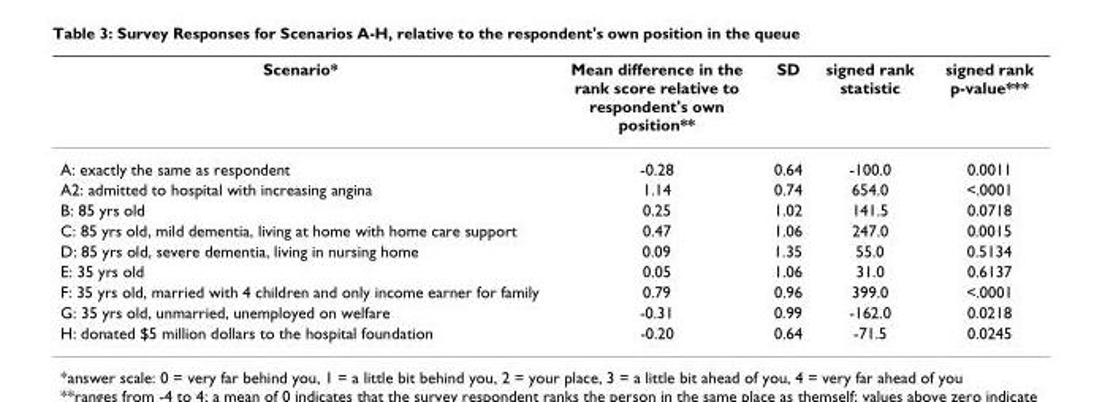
<table><thead><tr><td>Scenario*</td><td>Mean difference in the rank score relative to respondent&#x27;s own position**</td><td>SD</td><td>signed rank statistic</td><td>signed rank p-value***</td></tr></thead><tbody><tr><td>A: exactly the same as respondent</td><td>-0.28</td><td>0.64</td><td>-100.0</td><td>0.0011</td></tr><tr><td>A2: admitted to hospital with increasing angina</td><td>1.14</td><td>0.74</td><td>654.0</td><td>&lt;.0001</td></tr><tr><td>B: 85 yrs old</td><td>0.25</td><td>1.02</td><td>141.5</td><td>0.0718</td></tr><tr><td>C: 85 yrs old, mild dementia, living at home with home care support</td><td>0.47</td><td>1.06</td><td>247.0</td><td>0.0015</td></tr><tr><td>D: 85 yrs old, severe dementia, living in nursing home</td><td>0.09</td><td>1.35</td><td>55.0</td><td>0.5134</td></tr><tr><td>E: 35 yrs old</td><td>0.05</td><td>1.06</td><td>31.0</td><td>0.6137</td></tr><tr><td>F: 35 yrs old, married with 4 children and only income earner for family</td><td>0.79</td><td>0.96</td><td>399.0</td><td>&lt;.0001</td></tr><tr><td>G: 35 yrs old, unmarried, unemployed on welfare</td><td>-0.31</td><td>0.99</td><td>-162.0</td><td>0.0218</td></tr><tr><td>H: donated $5 million dollars to the hospital foundation</td><td>-0.20</td><td>0.64</td><td>-71.5</td><td>0.0245</td></tr></tbody></table>